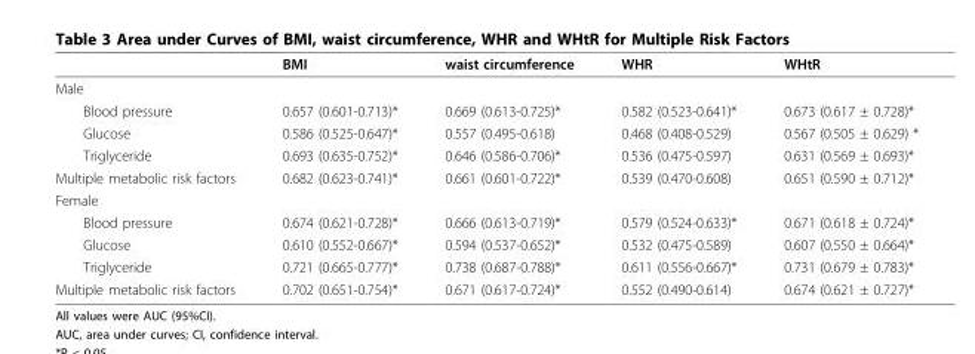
<table><thead><tr><td></td><td>BMI</td><td>waist circumference</td><td>WHR</td><td>WHtR</td></tr></thead><tbody><tr><td colspan="5">Male</td></tr><tr><td>Blood pressure</td><td>0.657 (0.601-0.713)*</td><td>0.669 (0.613-0.725)*</td><td>0.582 (0.523-0.641)*</td><td>0.673 (0.617 ± 0.728)*</td></tr><tr><td>Glucose</td><td>0.586 (0.525-0.647)*</td><td>0.557 (0.495-0.618)</td><td>0.468 (0.408-0.529)</td><td>0.567 (0.505 ± 0.629) *</td></tr><tr><td>Triglyceride</td><td>0.693 (0.635-0.752)*</td><td>0.646 (0.586-0.706)*</td><td>0.536 (0.475-0.597)</td><td>0.631 (0.569 ± 0.693)*</td></tr><tr><td>Multiple metabolic risk factors</td><td>0.682 (0.623-0.741)*</td><td>0.661 (0.601-0.722)*</td><td>0.539 (0.470-0.608)</td><td>0.651 (0.590 ± 0.712)*</td></tr><tr><td colspan="5">Female</td></tr><tr><td>Blood pressure</td><td>0.674 (0.621-0.728)*</td><td>0.666 (0.613-0.719)*</td><td>0.579 (0.524-0.633)*</td><td>0.671 (0.618 ± 0.724)*</td></tr><tr><td>Glucose</td><td>0.610 (0.552-0.667)*</td><td>0.594 (0.537-0.652)*</td><td>0.532 (0.475-0.589)</td><td>0.607 (0.550 ± 0.664)*</td></tr><tr><td>Triglyceride</td><td>0.721 (0.665-0.777)*</td><td>0.738 (0.687-0.788)*</td><td>0.611 (0.556-0.667)*</td><td>0.731 (0.679 ± 0.783)*</td></tr><tr><td>Multiple metabolic risk factors</td><td>0.702 (0.651-0.754)*</td><td>0.671 (0.617-0.724)*</td><td>0.552 (0.490-0.614)</td><td>0.674 (0.621 ± 0.727)*</td></tr></tbody></table>